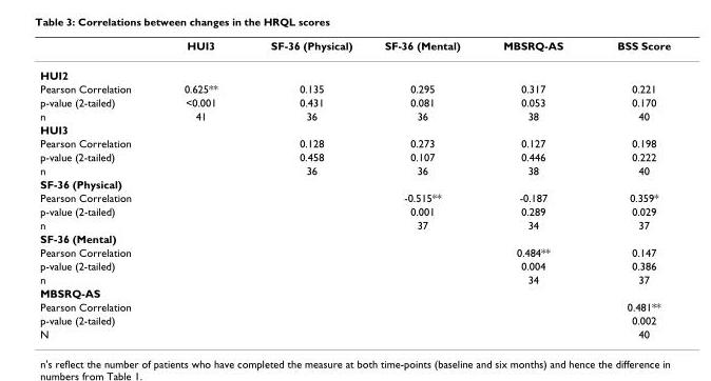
<table><thead><tr><td></td><td>HUI3</td><td>SF-36 (Physical)</td><td>SF-36 (Mental)</td><td>MBSRQ-AS</td><td>BSS Score</td></tr></thead><tbody><tr><td colspan="6">HUI2</td></tr><tr><td>Pearson Correlation</td><td>0.625**</td><td>0.135</td><td>0.295</td><td>0.317</td><td>0.221</td></tr><tr><td>p-value (2-tailed)</td><td>&lt;0.001</td><td>0.431</td><td>0.081</td><td>0.053</td><td>0.170</td></tr><tr><td>n</td><td>41</td><td>36</td><td>36</td><td>38</td><td>40</td></tr><tr><td colspan="6">HUI3</td></tr><tr><td>Pearson Correlation</td><td></td><td>0.128</td><td>0.273</td><td>0.127</td><td>0.198</td></tr><tr><td>p-value (2-tailed)</td><td></td><td>0.458</td><td>0.107</td><td>0.446</td><td>0.222</td></tr><tr><td>n</td><td></td><td>36</td><td>36</td><td>38</td><td>40</td></tr><tr><td colspan="6">SF-36 (Physical)</td></tr><tr><td>Pearson Correlation</td><td></td><td></td><td>-0.515**</td><td>-0.187</td><td>0.359*</td></tr><tr><td>p-value (2-tailed)</td><td></td><td></td><td>0.001</td><td>0.289</td><td>0.029</td></tr><tr><td>n</td><td></td><td></td><td>37</td><td>34</td><td>37</td></tr><tr><td colspan="6">SF-36 (Mental)</td></tr><tr><td>Pearson Correlation</td><td></td><td></td><td></td><td>0.484**</td><td>0.147</td></tr><tr><td>p-value (2-tailed)</td><td></td><td></td><td></td><td>0.004</td><td>0.386</td></tr><tr><td>n</td><td></td><td></td><td></td><td>34</td><td>37</td></tr><tr><td colspan="6">MBSRQ-AS</td></tr><tr><td>Pearson Correlation</td><td></td><td></td><td></td><td></td><td>0.481**</td></tr><tr><td>p-value (2-tailed)</td><td></td><td></td><td></td><td></td><td>0.002</td></tr><tr><td>N</td><td></td><td></td><td></td><td></td><td>40</td></tr></tbody></table>